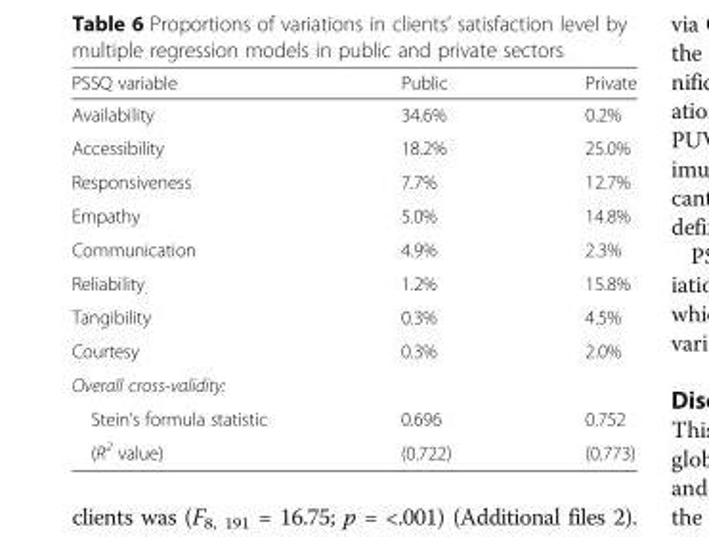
<table><thead><tr><td>PSSQ variable</td><td>Public</td><td>Private</td></tr></thead><tbody><tr><td>Availability</td><td>34.6%</td><td>0.2%</td></tr><tr><td>Accessibility</td><td>18.2%</td><td>25.0%</td></tr><tr><td>Responsiveness</td><td>7.7%</td><td>12.7%</td></tr><tr><td>Empathy</td><td>5.0%</td><td>14.8%</td></tr><tr><td>Communication</td><td>4.9%</td><td>2.3%</td></tr><tr><td>Reliability</td><td>1.2%</td><td>15.8%</td></tr><tr><td>Tangibility</td><td>0.3%</td><td>4.5%</td></tr><tr><td>Courtesy</td><td>0.3%</td><td>2.0%</td></tr><tr><td colspan="3">Overall cross-validity:</td></tr><tr><td>Stein’s formula statistic</td><td>0.696</td><td>0.752</td></tr><tr><td>(R<sup>2</sup> value)</td><td>(0.722)</td><td>(0.773)</td></tr></tbody></table>